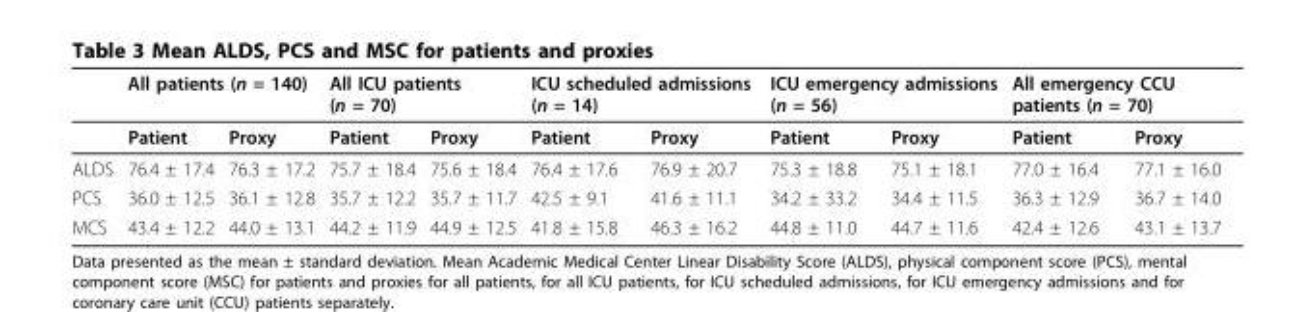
<table><thead><tr><td rowspan="2"></td><td colspan="2">All patients (n = 140)</td><td colspan="2">All ICU patients (n = 70)</td><td colspan="2">ICU scheduled admissions (n = 14)</td><td colspan="2">ICU emergency admissions (n = 56)</td><td colspan="2">All emergency CCU patients (n = 70)</td></tr><tr><td>Patient</td><td>Proxy</td><td>Patient</td><td>Proxy</td><td>Patient</td><td>Proxy</td><td>Patient</td><td>Proxy</td><td>Patient</td><td>Proxy</td></tr></thead><tbody><tr><td>ALDS</td><td>76.4 ± 17.4</td><td>76.3 ± 17.2</td><td>75.7 ± 18.4</td><td>75.6 ± 18.4</td><td>76.4 ± 17.6</td><td>76.9 ± 20.7</td><td>75.3 ± 18.8</td><td>75.1 ± 18.1</td><td>77.0 ± 16.4</td><td>77.1 ± 16.0</td></tr><tr><td>PCS</td><td>36.0 ± 12.5</td><td>36.1 ± 12.8</td><td>35.7 ± 12.2</td><td>35.7 ± 11.7</td><td>42.5 ± 9.1</td><td>41.6 ± 11.1</td><td>34.2 ± 33.2</td><td>34.4 ± 11.5</td><td>36.3 ± 12.9</td><td>36.7 ± 14.0</td></tr><tr><td>MCS</td><td>43.4 ± 12.2</td><td>44.0 ± 13.1</td><td>44.2 ± 11.9</td><td>44.9 ± 12.5</td><td>41.8 ± 15.8</td><td>46.3 ± 16.2</td><td>44.8 ± 11.0</td><td>44.7 ± 11.6</td><td>42.4 ± 12.6</td><td>43.1 ± 13.7</td></tr></tbody></table>